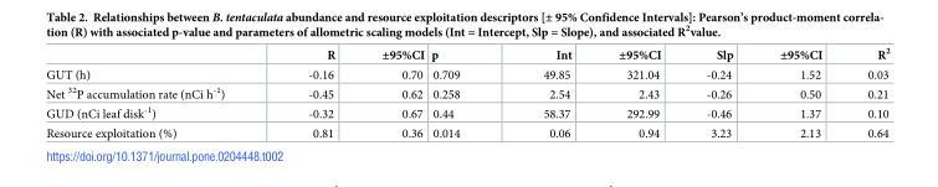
<table><thead><tr><td></td><td>R</td><td>±95%CI</td><td>p</td><td>Int</td><td>±95%CI</td><td>Slp</td><td>±95%CI</td><td>R<sup>2</sup></td></tr></thead><tbody><tr><td>GUT (h)</td><td>-0.16</td><td>0.70</td><td>0.709</td><td>49.85</td><td>321.04</td><td>-0.24</td><td>1.52</td><td>0.03</td></tr><tr><td>Net <sup>32</sup>P accumulation rate (nCi h<sup>-1</sup>)</td><td>-0.45</td><td>0.62</td><td>0.258</td><td>2.54</td><td>2.43</td><td>-0.26</td><td>0.50</td><td>0.21</td></tr><tr><td>GUD (nCi leaf disk<sup>-1</sup>)</td><td>-0.32</td><td>0.67</td><td>0.44</td><td>58.37</td><td>292.99</td><td>-0.46</td><td>1.37</td><td>0.10</td></tr><tr><td>Resource exploitation (%)</td><td>0.81</td><td>0.36</td><td>0.014</td><td>0.06</td><td>0.94</td><td>3.23</td><td>2.13</td><td>0.64</td></tr></tbody></table>